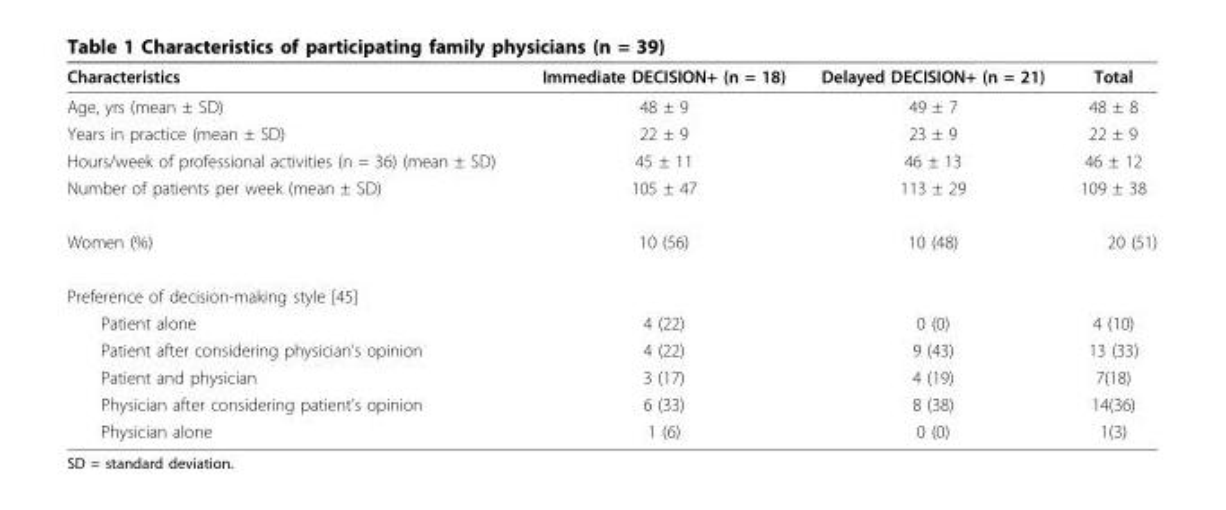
<table><thead><tr><td>Characteristics</td><td>Immediate DECISION+ (n = 18)</td><td>Delayed DECISION+ (n = 21)</td><td>Total</td></tr></thead><tbody><tr><td>Age, yrs (mean ± SD)</td><td>48 ± 9</td><td>49 ± 7</td><td>48 ± 8</td></tr><tr><td>Years in practice (mean ± SD)</td><td>22 ± 9</td><td>23 ± 9</td><td>22 ± 9</td></tr><tr><td>Hours/week of professional activities (n = 36) (mean ± SD)</td><td>45 ± 11</td><td>46 ± 13</td><td>46 ± 12</td></tr><tr><td>Number of patients per week (mean ± SD)</td><td>105 ± 47</td><td>113 ± 29</td><td>109 ± 38</td></tr><tr><td>Women (%)</td><td>10 (56)</td><td>10 (48)</td><td>20 (51)</td></tr><tr><td colspan="4">Preference of decision-making style [45]</td></tr><tr><td>Patient alone</td><td>4 (22)</td><td>0 (0)</td><td>4 (10)</td></tr><tr><td>Patient after considering physician’s opinion</td><td>4 (22)</td><td>9 (43)</td><td>13 (33)</td></tr><tr><td>Patient and physician</td><td>3 (17)</td><td>4 (19)</td><td>7(18)</td></tr><tr><td>Physician after considering patient’s opinion</td><td>6 (33)</td><td>8 (38)</td><td>14(36)</td></tr><tr><td>Physician alone</td><td>1 (6)</td><td>0 (0)</td><td>1(3)</td></tr></tbody></table>